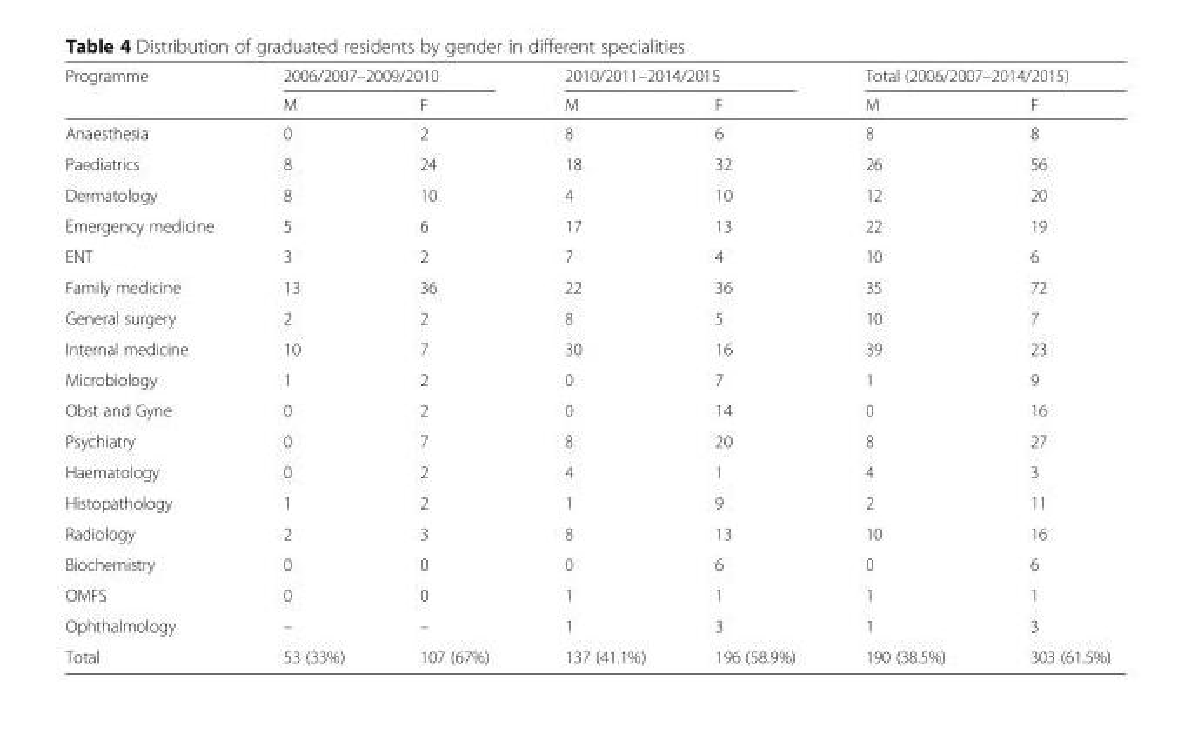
<table><thead><tr><td rowspan="2">Programme</td><td colspan="2">2006/2007–2009/2010</td><td colspan="2">2010/2011–2014/2015</td><td colspan="2">Total (2006/2007–2014/2015)</td></tr><tr><td>M</td><td>F</td><td>M</td><td>F</td><td>M</td><td>F</td></tr></thead><tbody><tr><td>Anaesthesia</td><td>0</td><td>2</td><td>8</td><td>6</td><td>8</td><td>8</td></tr><tr><td>Paediatrics</td><td>8</td><td>24</td><td>18</td><td>32</td><td>26</td><td>56</td></tr><tr><td>Dermatology</td><td>8</td><td>10</td><td>4</td><td>10</td><td>12</td><td>20</td></tr><tr><td>Emergency medicine</td><td>5</td><td>6</td><td>17</td><td>13</td><td>22</td><td>19</td></tr><tr><td>ENT</td><td>3</td><td>2</td><td>7</td><td>4</td><td>10</td><td>6</td></tr><tr><td>Family medicine</td><td>13</td><td>36</td><td>22</td><td>36</td><td>35</td><td>72</td></tr><tr><td>General surgery</td><td>2</td><td>2</td><td>8</td><td>5</td><td>10</td><td>7</td></tr><tr><td>Internal medicine</td><td>10</td><td>7</td><td>30</td><td>16</td><td>39</td><td>23</td></tr><tr><td>Microbiology</td><td>1</td><td>2</td><td>0</td><td>7</td><td>1</td><td>9</td></tr><tr><td>Obst and Gyne</td><td>0</td><td>2</td><td>0</td><td>14</td><td>0</td><td>16</td></tr><tr><td>Psychiatry</td><td>0</td><td>7</td><td>8</td><td>20</td><td>8</td><td>27</td></tr><tr><td>Haematology</td><td>0</td><td>2</td><td>4</td><td>1</td><td>4</td><td>3</td></tr><tr><td>Histopathology</td><td>1</td><td>2</td><td>1</td><td>9</td><td>2</td><td>11</td></tr><tr><td>Radiology</td><td>2</td><td>3</td><td>8</td><td>13</td><td>10</td><td>16</td></tr><tr><td>Biochemistry</td><td>0</td><td>0</td><td>0</td><td>6</td><td>0</td><td>6</td></tr><tr><td>OMFS</td><td>0</td><td>0</td><td>1</td><td>1</td><td>1</td><td>1</td></tr><tr><td>Ophthalmology</td><td>–</td><td>–</td><td>1</td><td>3</td><td>1</td><td>3</td></tr><tr><td>Total</td><td>53 (33%)</td><td>107 (67%)</td><td>137 (41.1%)</td><td>196 (58.9%)</td><td>190 (38.5%)</td><td>303 (61.5%)</td></tr></tbody></table>